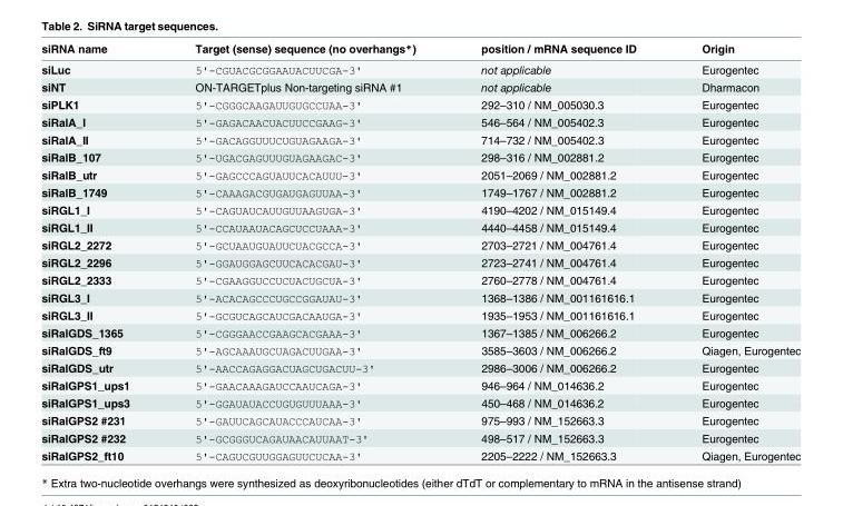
<table><thead><tr><td>siRNA name</td><td>Target (sense) sequence (no overhangs*)</td><td>position / mRNA sequence ID</td><td>Origin</td></tr></thead><tbody><tr><td>siLuc</td><td>5&#x27;-CGUACGCGGAAUACUUCGA-3&#x27;</td><td>not applicable</td><td>Eurogentec</td></tr><tr><td>siNT</td><td>ON-TARGETplus Non-targeting siRNA #1</td><td>not applicable</td><td>Dharmacon</td></tr><tr><td>siPLK1</td><td>5&#x27;-CGGGCAAGAUUGUGCCUAA-3&#x27;</td><td>292–310 / NM_005030.3</td><td>Eurogentec</td></tr><tr><td>siRalA_I</td><td>5&#x27;-GAGACAACUACUUCCGAAG-3&#x27;</td><td>546–564 / NM_005402.3</td><td>Eurogentec</td></tr><tr><td>siRalA_II</td><td>5&#x27;-GACAGGUUUCUGUAGAAGA-3&#x27;</td><td>714–732 / NM_005402.3</td><td>Eurogentec</td></tr><tr><td>siRalB_107</td><td>5&#x27;-UGACGAGUUUGUAGAAGAC-3&#x27;</td><td>298–316 / NM_002881.2</td><td>Eurogentec</td></tr><tr><td>siRalB_utr</td><td>5&#x27;-GAGCCCAGUAUUCACAUUU-3&#x27;</td><td>2051–2069 / NM_002881.2</td><td>Eurogentec</td></tr><tr><td>siRalB_1749</td><td>5&#x27;-CAAAGACGUGAUGAGUUAA-3&#x27;</td><td>1749–1767 / NM_002881.2</td><td>Eurogentec</td></tr><tr><td>siRGL1_I</td><td>5&#x27;-CAGUAUCAUUGUUAAGUGA-3&#x27;</td><td>4190–4202 / NM_015149.4</td><td>Eurogentec</td></tr><tr><td>siRGL1_II</td><td>5&#x27;-CCAUAAUACAGCUCCUAAA-3&#x27;</td><td>4440–4458 / NM_015149.4</td><td>Eurogentec</td></tr><tr><td>siRGL2_2272</td><td>5&#x27;-GCUAAUGUAUUCUACGCCA-3&#x27;</td><td>2703–2721 / NM_004761.4</td><td>Eurogentec</td></tr><tr><td>siRGL2_2296</td><td>5&#x27;-GGAUGGAGCUUCACACGAU-3&#x27;</td><td>2723–2741 / NM_004761.4</td><td>Eurogentec</td></tr><tr><td>siRGL2_2333</td><td>5&#x27;-CGAAGGUCCUCUACUGCUA-3&#x27;</td><td>2760–2778 / NM_004761.4</td><td>Eurogentec</td></tr><tr><td>siRGL3_I</td><td>5&#x27;-ACACAGCCCUGCCGGAUAU-3&#x27;</td><td>1368–1386 / NM_001161616.1</td><td>Eurogentec</td></tr><tr><td>siRGL3_II</td><td>5&#x27;-GCGUCAGCAUCGACAAUGA-3&#x27;</td><td>1935–1953 / NM_001161616.1</td><td>Eurogentec</td></tr><tr><td>siRalGDS_1365</td><td>5&#x27;-CGGGAACCGAAGCACGAAA-3&#x27;</td><td>1367–1385 / NM_006266.2</td><td>Eurogentec</td></tr><tr><td>siRalGDS_ft9</td><td>5&#x27;-AGCAAAUGCUAGACUUGAA-3&#x27;</td><td>3585–3603 / NM_006266.2</td><td>Qiagen, Eurogentec</td></tr><tr><td>siRalGDS_utr</td><td>5&#x27;-AACCAGAGGACUAGCUGACUU-3&#x27;</td><td>2986–3006 / NM_006266.2</td><td>Eurogentec</td></tr><tr><td>siRalGPS1_ups1</td><td>5&#x27;-GAACAAAGAUCCAAUCAGA-3&#x27;</td><td>946–964 / NM_014636.2</td><td>Eurogentec</td></tr><tr><td>siRalGPS1_ups3</td><td>5&#x27;-GGAUAUACCUGUGUUUAAA-3&#x27;</td><td>450–468 / NM_014636.2</td><td>Eurogentec</td></tr><tr><td>siRalGPS2 #231</td><td>5&#x27;-GAUUCAGCAUACCCAUCAA-3&#x27;</td><td>975–993 / NM_152663.3</td><td>Eurogentec</td></tr><tr><td>siRalGPS2 #232</td><td>5&#x27;-GCGGGUCAGAUAACAUUAAT-3&#x27;</td><td>498–517 / NM_152663.3</td><td>Eurogentec</td></tr><tr><td>siRalGPS2_ft10</td><td>5&#x27;-CAGUCGUUGGAGUUCUCAA-3&#x27;</td><td>2205–2222 / NM_152663.3</td><td>Qiagen, Eurogentec</td></tr></tbody></table>